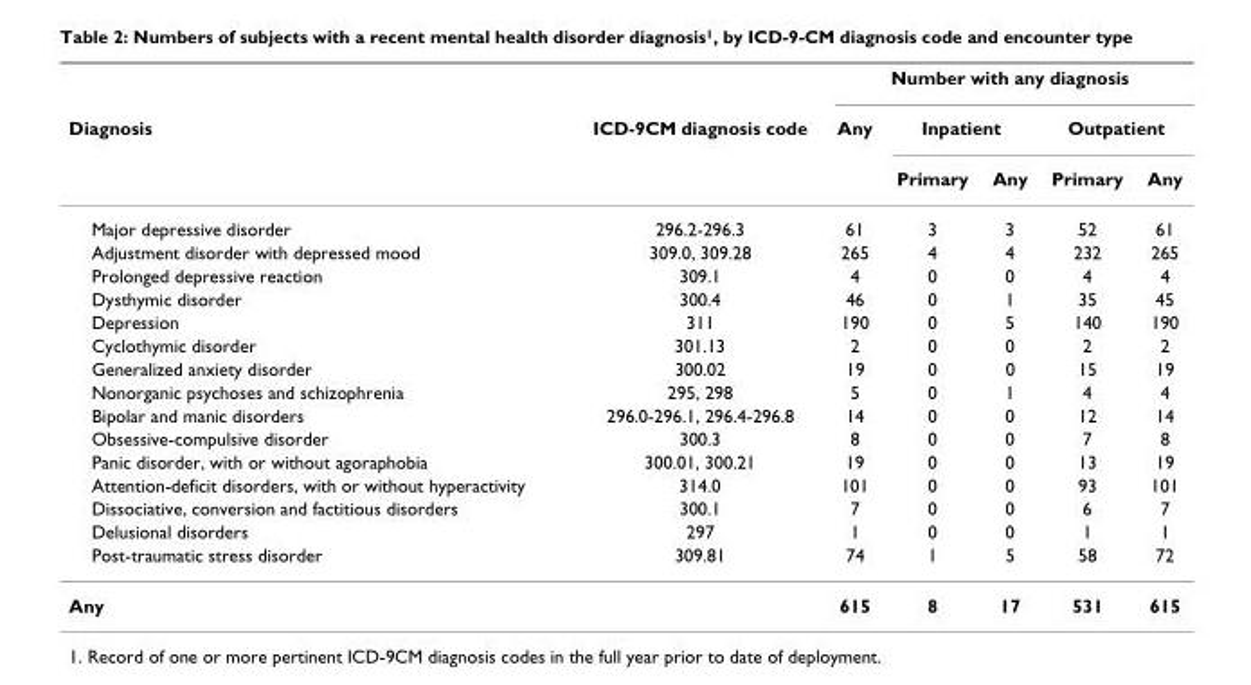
<table><thead><tr><td rowspan="3">Diagnosis</td><td rowspan="3">ICD-9CM diagnosis code</td><td colspan="5">Number with any diagnosis</td></tr><tr><td rowspan="2">Any</td><td colspan="2">Inpatient</td><td colspan="2">Outpatient</td></tr><tr><td>Primary</td><td>Any</td><td>Primary</td><td>Any</td></tr></thead><tbody><tr><td>Major depressive disorder</td><td>296.2-296.3</td><td>61</td><td>3</td><td>3</td><td>52</td><td>61</td></tr><tr><td>Adjustment disorder with depressed mood</td><td>309.0, 309.28</td><td>265</td><td>4</td><td>4</td><td>232</td><td>265</td></tr><tr><td>Prolonged depressive reaction</td><td>309.1</td><td>4</td><td>0</td><td>0</td><td>4</td><td>4</td></tr><tr><td>Dysthymic disorder</td><td>300.4</td><td>46</td><td>0</td><td>1</td><td>35</td><td>45</td></tr><tr><td>Depression</td><td>311</td><td>190</td><td>0</td><td>5</td><td>140</td><td>190</td></tr><tr><td>Cyclothymic disorder</td><td>301.13</td><td>2</td><td>0</td><td>0</td><td>2</td><td>2</td></tr><tr><td>Generalized anxiety disorder</td><td>300.02</td><td>19</td><td>0</td><td>0</td><td>15</td><td>19</td></tr><tr><td>Nonorganic psychoses and schizophrenia</td><td>295, 298</td><td>5</td><td>0</td><td>1</td><td>4</td><td>4</td></tr><tr><td>Bipolar and manic disorders</td><td>296.0-296.1, 296.4-296.8</td><td>14</td><td>0</td><td>0</td><td>12</td><td>14</td></tr><tr><td>Obsessive-compulsive disorder</td><td>300.3</td><td>8</td><td>0</td><td>0</td><td>7</td><td>8</td></tr><tr><td>Panic disorder, with or without agoraphobia</td><td>300.01, 300.21</td><td>19</td><td>0</td><td>0</td><td>13</td><td>19</td></tr><tr><td>Attention-deficit disorders, with or without hyperactivity</td><td>314.0</td><td>101</td><td>0</td><td>0</td><td>93</td><td>101</td></tr><tr><td>Dissociative, conversion and factitious disorders</td><td>300.1</td><td>7</td><td>0</td><td>0</td><td>6</td><td>7</td></tr><tr><td>Delusional disorders</td><td>297</td><td>1</td><td>0</td><td>0</td><td>1</td><td>1</td></tr><tr><td>Post-traumatic stress disorder</td><td>309.81</td><td>74</td><td>1</td><td>5</td><td>58</td><td>72</td></tr><tr><td>Any</td><td></td><td>615</td><td>8</td><td>17</td><td>531</td><td>615</td></tr></tbody></table>